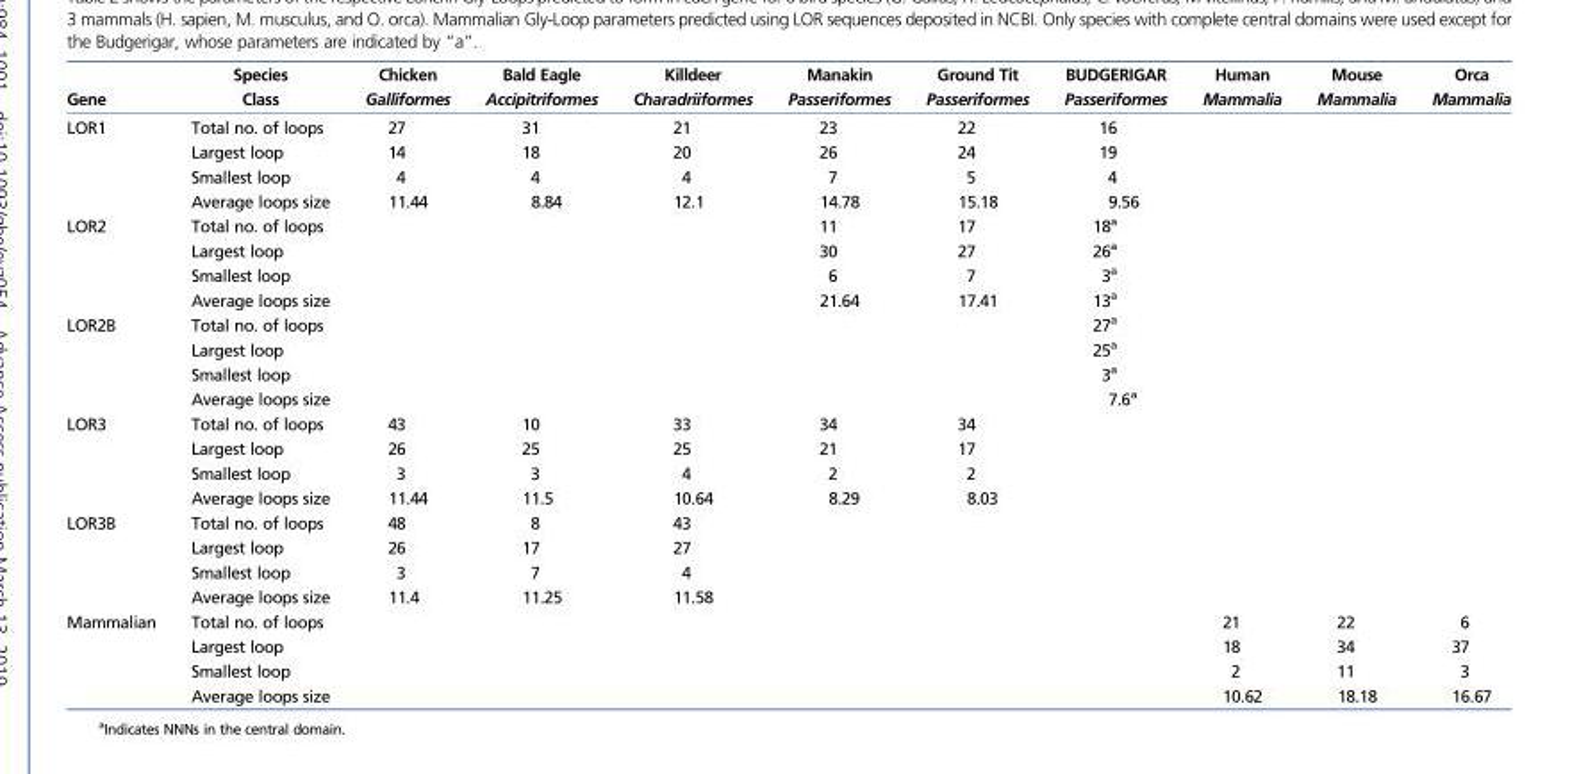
<table><thead><tr><td rowspan="2">Gene</td><td rowspan="2">Species Class</td><td rowspan="2">Chicken Galliformes</td><td rowspan="2">Bald Eagle Accipitriformes</td><td rowspan="2">Killdeer Charadriiformes</td><td rowspan="2">Manakin Passeriformes</td><td rowspan="2">Ground Tit Passeriformes</td><td rowspan="2">BUDGERIGAR Passeriformes</td><td rowspan="2">Human Mammalia</td><td rowspan="2">Mouse Mammalia</td><td rowspan="2">Orca Mammalia</td></tr><tr></tr></thead><tbody><tr><td rowspan="4">LOR1</td><td>Total no. of loops</td><td>27</td><td>31</td><td>21</td><td>23</td><td>22</td><td>16</td><td></td><td></td><td></td></tr><tr><td>Largest loop</td><td>14</td><td>18</td><td>20</td><td>26</td><td>24</td><td>19</td><td></td><td></td><td></td></tr><tr><td>Smallest loop</td><td>4</td><td>4</td><td>4</td><td>7</td><td>5</td><td>4</td><td></td><td></td><td></td></tr><tr><td>Average loops size</td><td>11.44</td><td>8.84</td><td>12.1</td><td>14.78</td><td>15.18</td><td>9.56</td><td></td><td></td><td></td></tr><tr><td rowspan="4">LOR2</td><td>Total no. of loops</td><td></td><td></td><td></td><td>11</td><td>17</td><td>18<sup>a</sup></td><td></td><td></td><td></td></tr><tr><td>Largest loop</td><td></td><td></td><td></td><td>30</td><td>27</td><td>26<sup>a</sup></td><td></td><td></td><td></td></tr><tr><td>Smallest loop</td><td></td><td></td><td></td><td>6</td><td>7</td><td>3<sup>a</sup></td><td></td><td></td><td></td></tr><tr><td>Average loops size</td><td></td><td></td><td></td><td>21.64</td><td>17.41</td><td>13<sup>a</sup></td><td></td><td></td><td></td></tr><tr><td rowspan="4">LOR2B</td><td>Total no. of loops</td><td></td><td></td><td></td><td></td><td></td><td>27<sup>a</sup></td><td></td><td></td><td></td></tr><tr><td>Largest loop</td><td></td><td></td><td></td><td></td><td></td><td>25<sup>a</sup></td><td></td><td></td><td></td></tr><tr><td>Smallest loop</td><td></td><td></td><td></td><td></td><td></td><td>3<sup>a</sup></td><td></td><td></td><td></td></tr><tr><td>Average loops size</td><td></td><td></td><td></td><td></td><td></td><td>7.6<sup>a</sup></td><td></td><td></td><td></td></tr><tr><td rowspan="4">LOR3</td><td>Total no. of loops</td><td>43</td><td>10</td><td>33</td><td>34</td><td>34</td><td></td><td></td><td></td><td></td></tr><tr><td>Largest loop</td><td>26</td><td>25</td><td>25</td><td>21</td><td>17</td><td></td><td></td><td></td><td></td></tr><tr><td>Smallest loop</td><td>3</td><td>3</td><td>4</td><td>2</td><td>2</td><td></td><td></td><td></td><td></td></tr><tr><td>Average loops size</td><td>11.44</td><td>11.5</td><td>10.64</td><td>8.29</td><td>8.03</td><td></td><td></td><td></td><td></td></tr><tr><td rowspan="4">LOR3B</td><td>Total no. of loops</td><td>48</td><td>8</td><td>43</td><td></td><td></td><td></td><td></td><td></td><td></td></tr><tr><td>Largest loop</td><td>26</td><td>17</td><td>27</td><td></td><td></td><td></td><td></td><td></td><td></td></tr><tr><td>Smallest loop</td><td>3</td><td>7</td><td>4</td><td></td><td></td><td></td><td></td><td></td><td></td></tr><tr><td>Average loops size</td><td>11.4</td><td>11.25</td><td>11.58</td><td></td><td></td><td></td><td></td><td></td><td></td></tr><tr><td rowspan="4">Mammalian</td><td>Total no. of loops</td><td></td><td></td><td></td><td></td><td></td><td></td><td>21</td><td>22</td><td>6</td></tr><tr><td>Largest loop</td><td></td><td></td><td></td><td></td><td></td><td></td><td>18</td><td>34</td><td>37</td></tr><tr><td>Smallest loop</td><td></td><td></td><td></td><td></td><td></td><td></td><td>2</td><td>11</td><td>3</td></tr><tr><td>Average loops size</td><td></td><td></td><td></td><td></td><td></td><td></td><td>10.62</td><td>18.18</td><td>16.67</td></tr></tbody></table>